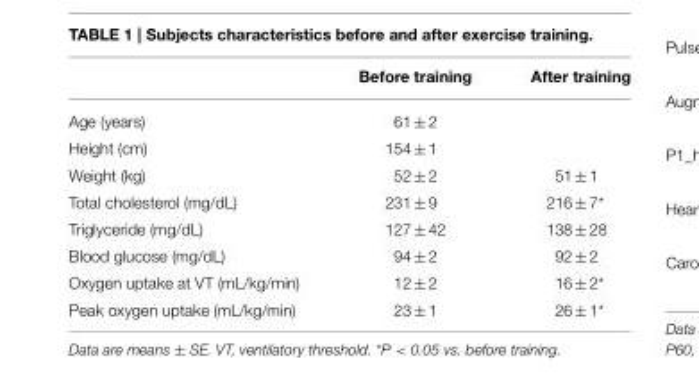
<table><thead><tr><td></td><td>Before training</td><td>After training</td></tr></thead><tbody><tr><td>Age (years)</td><td>61 ± 2</td><td></td></tr><tr><td>Height (cm)</td><td>154 ± 1</td><td></td></tr><tr><td>Weight (kg)</td><td>52 ± 2</td><td>51 ± 1</td></tr><tr><td>Total cholesterol (mg/dL)</td><td>231 ± 9</td><td>216 ± 7*</td></tr><tr><td>Triglyceride (mg/dL)</td><td>127 ± 42</td><td>138 ± 28</td></tr><tr><td>Blood glucose (mg/dL)</td><td>94 ± 2</td><td>92 ± 2</td></tr><tr><td>Oxygen uptake at VT (mL/kg/min)</td><td>12 ± 2</td><td>16 ± 2*</td></tr><tr><td>Peak oxygen uptake (mL/kg/min)</td><td>23 ± 1</td><td>26 ± 1*</td></tr></tbody></table>